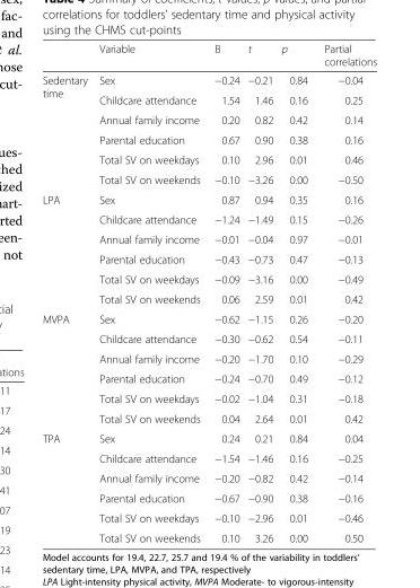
<table><thead><tr><td></td><td>Variable</td><td>B</td><td>t</td><td>p</td><td>Partial correlations</td></tr></thead><tbody><tr><td rowspan="6">Sedentary time</td><td>Sex</td><td>−0.24</td><td>−0.21</td><td>0.84</td><td>−0.04</td></tr><tr><td>Childcare attendance</td><td>1.54</td><td>1.46</td><td>0.16</td><td>0.25</td></tr><tr><td>Annual family income</td><td>0.20</td><td>0.82</td><td>0.42</td><td>0.14</td></tr><tr><td>Parental education</td><td>0.67</td><td>0.90</td><td>0.38</td><td>0.16</td></tr><tr><td>Total SV on weekdays</td><td>0.10</td><td>2.96</td><td>0.01</td><td>0.46</td></tr><tr><td>Total SV on weekends</td><td>−0.10</td><td>−3.26</td><td>0.00</td><td>−0.50</td></tr><tr><td rowspan="6">LPA</td><td>Sex</td><td>0.87</td><td>0.94</td><td>0.35</td><td>0.16</td></tr><tr><td>Childcare attendance</td><td>−1.24</td><td>−1.49</td><td>0.15</td><td>−0.26</td></tr><tr><td>Annual family income</td><td>−0.01</td><td>−0.04</td><td>0.97</td><td>−0.01</td></tr><tr><td>Parental education</td><td>−0.43</td><td>−0.73</td><td>0.47</td><td>−0.13</td></tr><tr><td>Total SV on weekdays</td><td>−0.09</td><td>−3.16</td><td>0.00</td><td>−0.49</td></tr><tr><td>Total SV on weekends</td><td>0.06</td><td>2.59</td><td>0.01</td><td>0.42</td></tr><tr><td rowspan="6">MVPA</td><td>Sex</td><td>−0.62</td><td>−1.15</td><td>0.26</td><td>−0.20</td></tr><tr><td>Childcare attendance</td><td>−0.30</td><td>−0.62</td><td>0.54</td><td>−0.11</td></tr><tr><td>Annual family income</td><td>−0.20</td><td>−1.70</td><td>0.10</td><td>−0.29</td></tr><tr><td>Parental education</td><td>−0.24</td><td>−0.70</td><td>0.49</td><td>−0.12</td></tr><tr><td>Total SV on weekdays</td><td>−0.02</td><td>−1.04</td><td>0.31</td><td>−0.18</td></tr><tr><td>Total SV on weekends</td><td>0.04</td><td>2.64</td><td>0.01</td><td>0.42</td></tr><tr><td rowspan="6">TPA</td><td>Sex</td><td>0.24</td><td>0.21</td><td>0.84</td><td>0.04</td></tr><tr><td>Childcare attendance</td><td>−1.54</td><td>−1.46</td><td>0.16</td><td>−0.25</td></tr><tr><td>Annual family income</td><td>−0.20</td><td>−0.82</td><td>0.42</td><td>−0.14</td></tr><tr><td>Parental education</td><td>−0.67</td><td>−0.90</td><td>0.38</td><td>−0.16</td></tr><tr><td>Total SV on weekdays</td><td>−0.10</td><td>−2.96</td><td>0.01</td><td>−0.46</td></tr><tr><td>Total SV on weekends</td><td>0.10</td><td>3.26</td><td>0.00</td><td>0.50</td></tr></tbody></table>